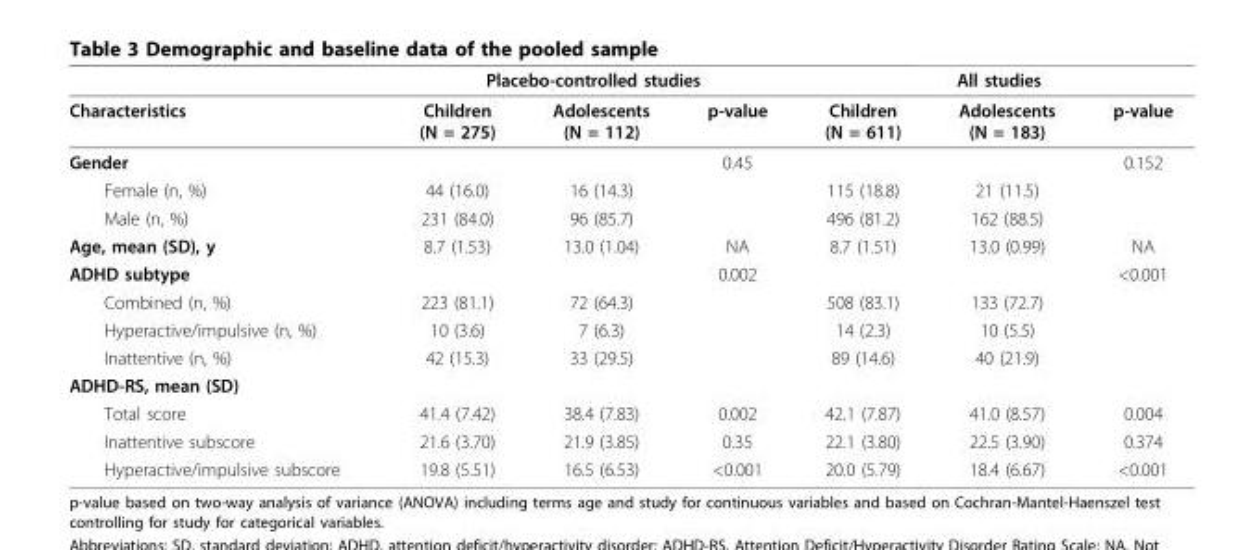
<table><thead><tr><td rowspan="2">Characteristics</td><td colspan="3">Placebo-controlled studies</td><td colspan="3">All studies</td></tr><tr><td>Children (N = 275)</td><td>Adolescents (N = 112)</td><td>p-value</td><td>Children (N = 611)</td><td>Adolescents (N = 183)</td><td>p-value</td></tr></thead><tbody><tr><td>Gender</td><td></td><td></td><td>0.45</td><td></td><td></td><td>0.152</td></tr><tr><td>Female (n, %)</td><td>44 (16.0)</td><td>16 (14.3)</td><td></td><td>115 (18.8)</td><td>21 (11.5)</td><td></td></tr><tr><td>Male (n, %)</td><td>231 (84.0)</td><td>96 (85.7)</td><td></td><td>496 (81.2)</td><td>162 (88.5)</td><td></td></tr><tr><td>Age, mean (SD), y</td><td>8.7 (1.53)</td><td>13.0 (1.04)</td><td>NA</td><td>8.7 (1.51)</td><td>13.0 (0.99)</td><td>NA</td></tr><tr><td>ADHD subtype</td><td></td><td></td><td>0.002</td><td></td><td></td><td>&lt;0.001</td></tr><tr><td>Combined (n, %)</td><td>223 (81.1)</td><td>72 (64.3)</td><td></td><td>508 (83.1)</td><td>133 (72.7)</td><td></td></tr><tr><td>Hyperactive/impulsive (n, %)</td><td>10 (3.6)</td><td>7 (6.3)</td><td></td><td>14 (2.3)</td><td>10 (5.5)</td><td></td></tr><tr><td>Inattentive (n, %)</td><td>42 (15.3)</td><td>33 (29.5)</td><td></td><td>89 (14.6)</td><td>40 (21.9)</td><td></td></tr><tr><td colspan="7">ADHD-RS, mean (SD)</td></tr><tr><td>Total score</td><td>41.4 (7.42)</td><td>38.4 (7.83)</td><td>0.002</td><td>42.1 (7.87)</td><td>41.0 (8.57)</td><td>0.004</td></tr><tr><td>Inattentive subscore</td><td>21.6 (3.70)</td><td>21.9 (3.85)</td><td>0.35</td><td>22.1 (3.80)</td><td>22.5 (3.90)</td><td>0.374</td></tr><tr><td>Hyperactive/impulsive subscore</td><td>19.8 (5.51)</td><td>16.5 (6.53)</td><td>&lt;0.001</td><td>20.0 (5.79)</td><td>18.4 (6.67)</td><td>&lt;0.001</td></tr></tbody></table>